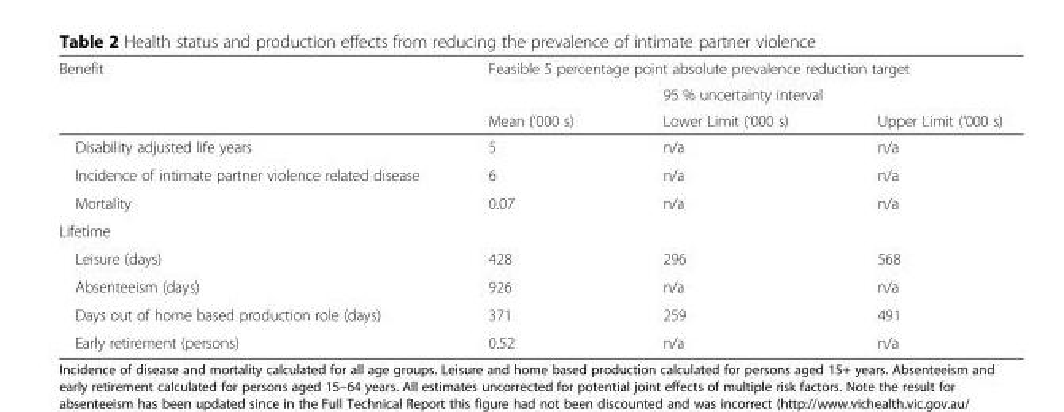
<table><thead><tr><td rowspan="3">Benefit</td><td colspan="3">Feasible 5 percentage point absolute prevalence reduction target</td></tr><tr><td rowspan="2">Mean (‘000 s)</td><td colspan="2">95 % uncertainty interval</td></tr><tr><td>Lower Limit (‘000 s)</td><td>Upper Limit (‘000 s)</td></tr></thead><tbody><tr><td>Disability adjusted life years</td><td>5</td><td>n/a</td><td>n/a</td></tr><tr><td>Incidence of intimate partner violence related disease</td><td>6</td><td>n/a</td><td>n/a</td></tr><tr><td>Mortality</td><td>0.07</td><td>n/a</td><td>n/a</td></tr><tr><td colspan="4">Lifetime</td></tr><tr><td>Leisure (days)</td><td>428</td><td>296</td><td>568</td></tr><tr><td>Absenteeism (days)</td><td>926</td><td>n/a</td><td>n/a</td></tr><tr><td>Days out of home based production role (days)</td><td>371</td><td>259</td><td>491</td></tr><tr><td>Early retirement (persons)</td><td>0.52</td><td>n/a</td><td>n/a</td></tr></tbody></table>